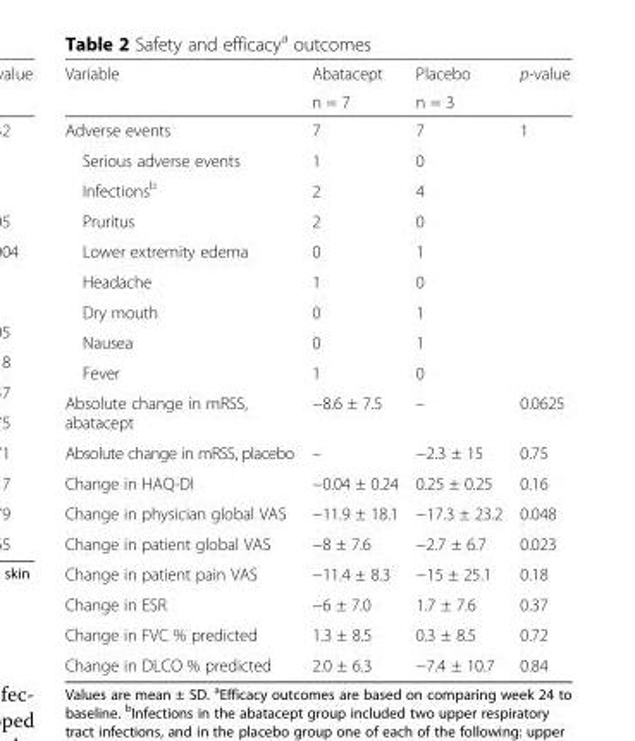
<table><thead><tr><td rowspan="2">Variable</td><td rowspan="2">Abatacept n = 7</td><td rowspan="2">Placebo n = 3</td><td rowspan="2">p-value</td></tr><tr></tr></thead><tbody><tr><td>Adverse events</td><td>7</td><td>7</td><td>1</td></tr><tr><td>Serious adverse events</td><td>1</td><td>0</td><td></td></tr><tr><td>Infections<sup>b</sup></td><td>2</td><td>4</td><td></td></tr><tr><td>Pruritus</td><td>2</td><td>0</td><td></td></tr><tr><td>Lower extremity edema</td><td>0</td><td>1</td><td></td></tr><tr><td>Headache</td><td>1</td><td>0</td><td></td></tr><tr><td>Dry mouth</td><td>0</td><td>1</td><td></td></tr><tr><td>Nausea</td><td>0</td><td>1</td><td></td></tr><tr><td>Fever</td><td>1</td><td>0</td><td></td></tr><tr><td>Absolute change in mRSS, abatacept</td><td>−8.6 ± 7.5</td><td>–</td><td>0.0625</td></tr><tr><td>Absolute change in mRSS, placebo</td><td>–</td><td>−2.3 ± 15</td><td>0.75</td></tr><tr><td>Change in HAQ-DI</td><td>−0.04 ± 0.24</td><td>0.25 ± 0.25</td><td>0.16</td></tr><tr><td>Change in physician global VAS</td><td>−11.9 ± 18.1</td><td>−17.3 ± 23.2</td><td>0.048</td></tr><tr><td>Change in patient global VAS</td><td>−8 ± 7.6</td><td>−2.7 ± 6.7</td><td>0.023</td></tr><tr><td>Change in patient pain VAS</td><td>−11.4 ± 8.3</td><td>−15 ± 25.1</td><td>0.18</td></tr><tr><td>Change in ESR</td><td>−6 ± 7.0</td><td>1.7 ± 7.6</td><td>0.37</td></tr><tr><td>Change in FVC % predicted</td><td>1.3 ± 8.5</td><td>0.3 ± 8.5</td><td>0.72</td></tr><tr><td>Change in DLCO % predicted</td><td>2.0 ± 6.3</td><td>−7.4 ± 10.7</td><td>0.84</td></tr></tbody></table>